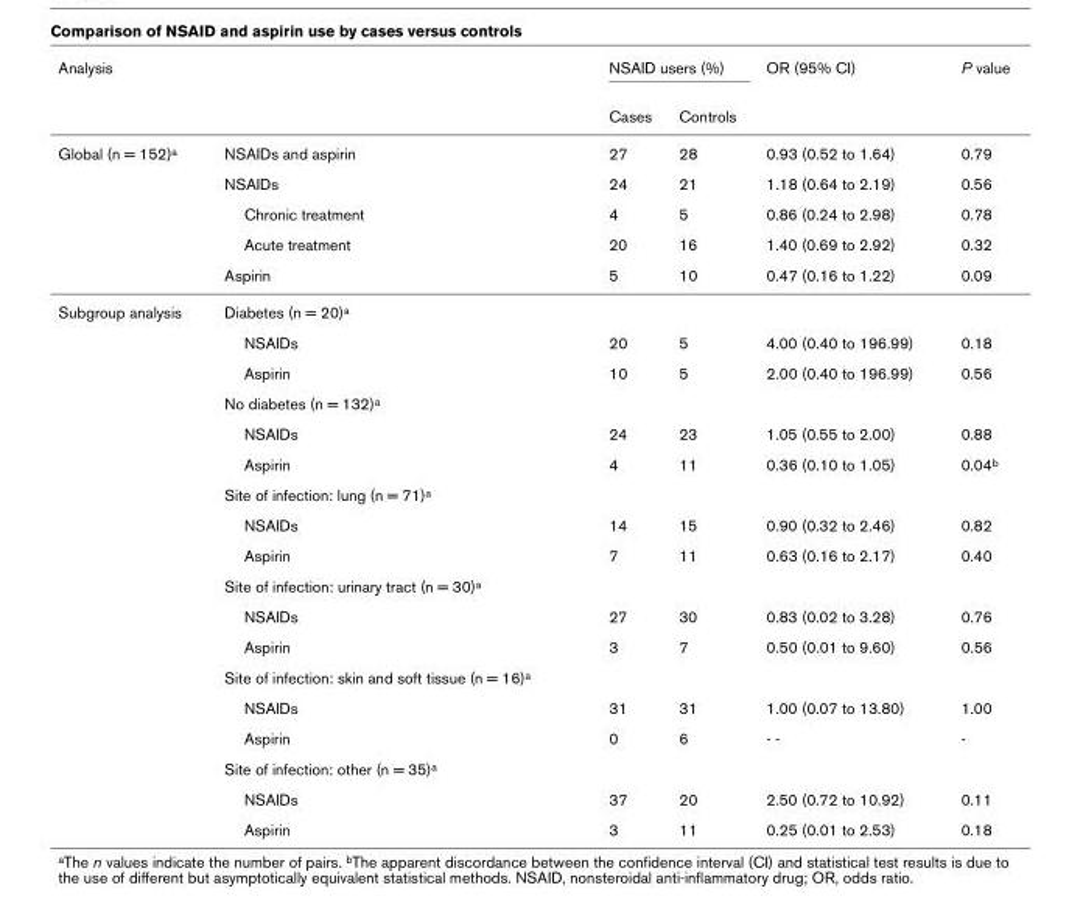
<table><thead><tr><td colspan="2">Analysis</td><td colspan="2">NSAID users (%)</td><td rowspan="2">OR (95% CI)</td><td rowspan="2">P value</td></tr><tr><td></td><td></td><td>Cases</td><td>Controls</td></tr></thead><tbody><tr><td rowspan="5">Global (n = 152)<sup>a</sup></td><td>NSAIDs and aspirin</td><td>27</td><td>28</td><td>0.93 (0.52 to 1.64)</td><td>0.79</td></tr><tr><td>NSAIDs</td><td>24</td><td>21</td><td>1.18 (0.64 to 2.19)</td><td>0.56</td></tr><tr><td>Chronic treatment</td><td>4</td><td>5</td><td>0.86 (0.24 to 2.98)</td><td>0.78</td></tr><tr><td>Acute treatment</td><td>20</td><td>16</td><td>1.40 (0.69 to 2.92)</td><td>0.32</td></tr><tr><td>Aspirin</td><td>5</td><td>10</td><td>0.47 (0.16 to 1.22)</td><td>0.09</td></tr><tr><td rowspan="18">Subgroup analysis</td><td>Diabetes (n = 20)<sup>a</sup></td><td></td><td></td><td></td><td></td></tr><tr><td>NSAIDs</td><td>20</td><td>5</td><td>4.00 (0.40 to 196.99)</td><td>0.18</td></tr><tr><td>Aspirin</td><td>10</td><td>5</td><td>2.00 (0.40 to 196.99)</td><td>0.56</td></tr><tr><td>No diabetes (n = 132)<sup>a</sup></td><td></td><td></td><td></td><td></td></tr><tr><td>NSAIDs</td><td>24</td><td>23</td><td>1.05 (0.55 to 2.00)</td><td>0.88</td></tr><tr><td>Aspirin</td><td>4</td><td>11</td><td>0.36 (0.10 to 1.05)</td><td>0.04<sup>b</sup></td></tr><tr><td>Site of infection: lung (n = 71)<sup>a</sup></td><td></td><td></td><td></td><td></td></tr><tr><td>NSAIDs</td><td>14</td><td>15</td><td>0.90 (0.32 to 2.46)</td><td>0.82</td></tr><tr><td>Aspirin</td><td>7</td><td>11</td><td>0.63 (0.16 to 2.17)</td><td>0.40</td></tr><tr><td>Site of infection: urinary tract (n = 30)<sup>a</sup></td><td></td><td></td><td></td><td></td></tr><tr><td>NSAIDs</td><td>27</td><td>30</td><td>0.83 (0.02 to 3.28)</td><td>0.76</td></tr><tr><td>Aspirin</td><td>3</td><td>7</td><td>0.50 (0.01 to 9.60)</td><td>0.56</td></tr><tr><td>Site of infection: skin and soft tissue (n = 16)<sup>a</sup></td><td></td><td></td><td></td><td></td></tr><tr><td>NSAIDs</td><td>31</td><td>31</td><td>1.00 (0.07 to 13.80)</td><td>1.00</td></tr><tr><td>Aspirin</td><td>0</td><td>6</td><td>- -</td><td>-</td></tr><tr><td>Site of infection: other (n = 35)<sup>a</sup></td><td></td><td></td><td></td><td></td></tr><tr><td>NSAIDs</td><td>37</td><td>20</td><td>2.50 (0.72 to 10.92)</td><td>0.11</td></tr><tr><td>Aspirin</td><td>3</td><td>11</td><td>0.25 (0.01 to 2.53)</td><td>0.18</td></tr></tbody></table>